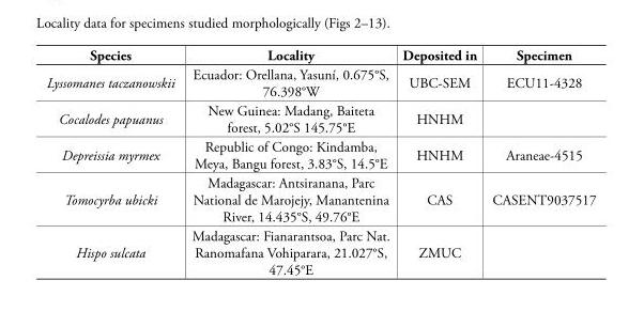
<table><thead><tr><td>Species</td><td>Locality</td><td>Deposited in</td><td>Specimen</td></tr></thead><tbody><tr><td>Lyssomanes taczanowskii</td><td>Ecuador: Orellana, Yasuní, 0.675°S, 76.398°W</td><td>UBC-SEM</td><td>ECU11-4328</td></tr><tr><td>Cocalodes papuanus</td><td>New Guinea: Madang, Baiteta forest, 5.02°S 145.75°E</td><td>HNHM</td><td></td></tr><tr><td>Depreissia myrmex</td><td>Republic of Congo: Kindamba, Meya, Bangu forest, 3.83°S, 14.5°E</td><td>HNHM</td><td>Araneae-4515</td></tr><tr><td>Tomocyrba ubicki</td><td>Madagascar: Antsiranana, Parc National de Marojejy, Manantenina River, 14.435°S, 49.76°E</td><td>CAS</td><td>CASENT9037517</td></tr><tr><td>Hispo sulcata</td><td>Madagascar: Fianarantsoa, Parc Nat. Ranomafana Vohiparara, 21.027°S, 47.45°E</td><td>ZMUC</td><td></td></tr></tbody></table>